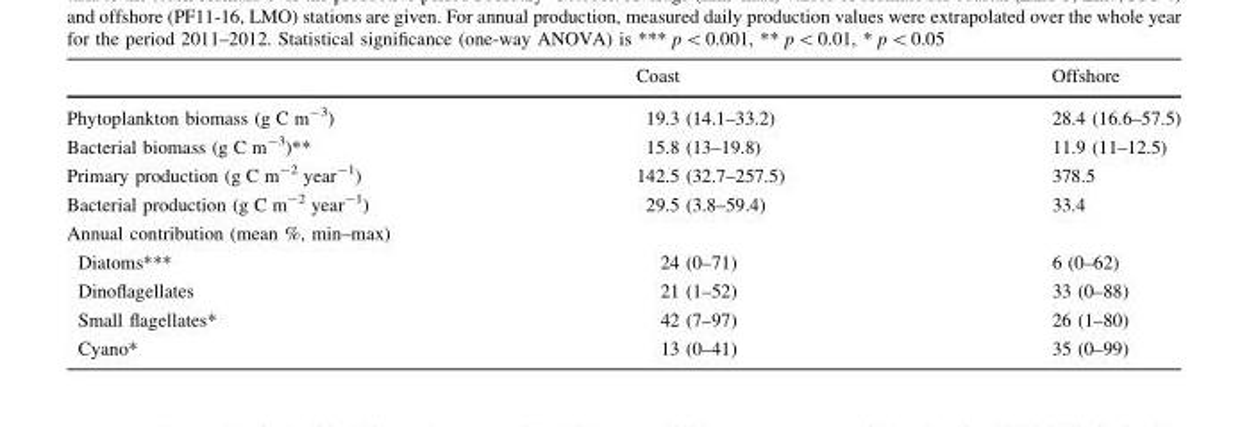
<table><thead><tr><td></td><td>Coast</td><td>Offshore</td></tr></thead><tbody><tr><td>Phytoplankton biomass (g C m<sup>-3</sup>)</td><td>19.3 (14.1–33.2)</td><td>28.4 (16.6–57.5)</td></tr><tr><td>Bacterial biomass (g C m<sup>-3</sup>)**</td><td>15.8 (13–19.8)</td><td>11.9 (11–12.5)</td></tr><tr><td>Primary production (g C m<sup>-2</sup> year<sup>-1</sup>)</td><td>142.5 (32.7–257.5)</td><td>378.5</td></tr><tr><td>Bacterial production (g C m<sup>-2</sup> year<sup>-1</sup>)</td><td>29.5 (3.8–59.4)</td><td>33.4</td></tr><tr><td colspan="3">Annual contribution (mean %, min–max)</td></tr><tr><td>Diatoms***</td><td>24 (0–71)</td><td>6 (0–62)</td></tr><tr><td>Dinoflagellates</td><td>21 (1–52)</td><td>33 (0–88)</td></tr><tr><td>Small flagellates*</td><td>42 (7–97)</td><td>26 (1–80)</td></tr><tr><td>Cyano*</td><td>13 (0–41)</td><td>35 (0–99)</td></tr></tbody></table>